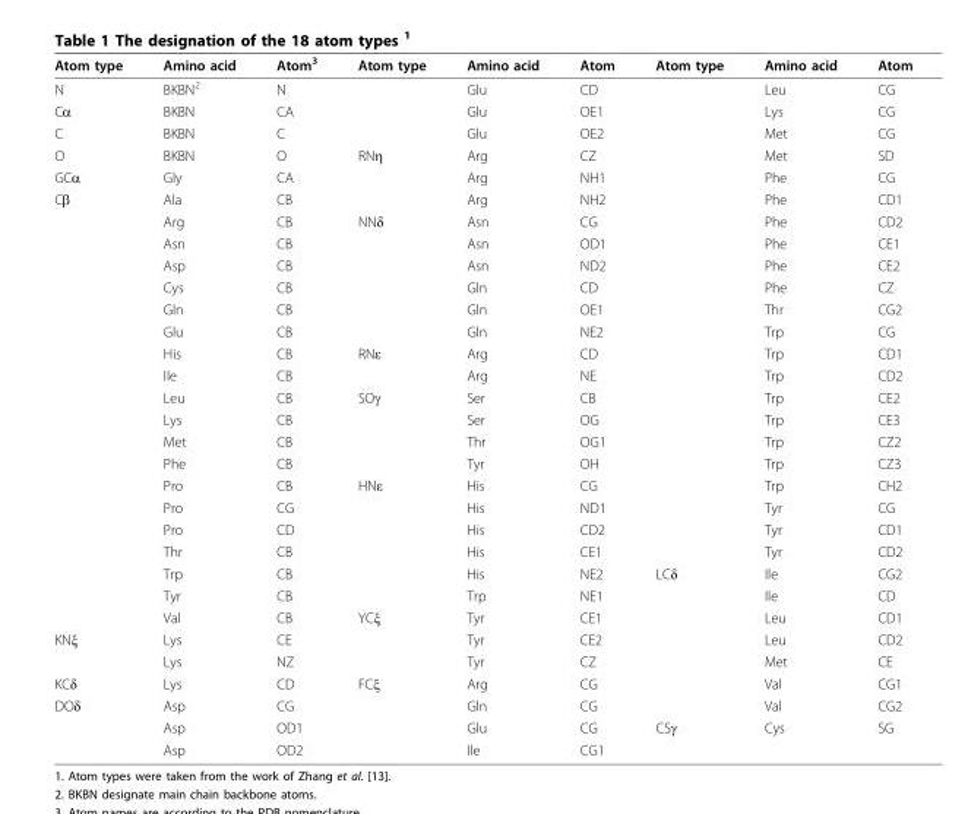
<table><thead><tr><td>Atom type</td><td>Amino acid</td><td>Atom<sup>3</sup></td><td>Atom type</td><td>Amino acid</td><td>Atom</td><td>Atom type</td><td>Amino acid</td><td>Atom</td></tr></thead><tbody><tr><td>N</td><td>BKBN<sup>2</sup></td><td>N</td><td></td><td>Glu</td><td>CD</td><td></td><td>Leu</td><td>CG</td></tr><tr><td>Cα</td><td>BKBN</td><td>CA</td><td></td><td>Glu</td><td>OE1</td><td></td><td>Lys</td><td>CG</td></tr><tr><td>C</td><td>BKBN</td><td>C</td><td></td><td>Glu</td><td>OE2</td><td></td><td>Met</td><td>CG</td></tr><tr><td>O</td><td>BKBN</td><td>O</td><td>RNη</td><td>Arg</td><td>CZ</td><td></td><td>Met</td><td>SD</td></tr><tr><td>GCα</td><td>Gly</td><td>CA</td><td></td><td>Arg</td><td>NH1</td><td></td><td>Phe</td><td>CG</td></tr><tr><td rowspan="20">Cβ</td><td>Ala</td><td>CB</td><td></td><td>Arg</td><td>NH2</td><td></td><td>Phe</td><td>CD1</td></tr><tr><td>Arg</td><td>CB</td><td>NNδ</td><td>Asn</td><td>CG</td><td></td><td>Phe</td><td>CD2</td></tr><tr><td>Asn</td><td>CB</td><td></td><td>Asn</td><td>OD1</td><td></td><td>Phe</td><td>CE1</td></tr><tr><td>Asp</td><td>CB</td><td></td><td>Asn</td><td>ND2</td><td></td><td>Phe</td><td>CE2</td></tr><tr><td>Cys</td><td>CB</td><td></td><td>Gln</td><td>CD</td><td></td><td>Phe</td><td>CZ</td></tr><tr><td>Gln</td><td>CB</td><td></td><td>Gln</td><td>OE1</td><td></td><td>Thr</td><td>CG2</td></tr><tr><td>Glu</td><td>CB</td><td></td><td>Gln</td><td>NE2</td><td></td><td>Trp</td><td>CG</td></tr><tr><td>His</td><td>CB</td><td>RNε</td><td>Arg</td><td>CD</td><td></td><td>Trp</td><td>CD1</td></tr><tr><td>Ile</td><td>CB</td><td></td><td>Arg</td><td>NE</td><td></td><td>Trp</td><td>CD2</td></tr><tr><td>Leu</td><td>CB</td><td>SOγ</td><td>Ser</td><td>CB</td><td></td><td>Trp</td><td>CE2</td></tr><tr><td>Lys</td><td>CB</td><td></td><td>Ser</td><td>OG</td><td></td><td>Trp</td><td>CE3</td></tr><tr><td>Met</td><td>CB</td><td></td><td>Thr</td><td>OG1</td><td></td><td>Trp</td><td>CZ2</td></tr><tr><td>Phe</td><td>CB</td><td></td><td>Tyr</td><td>OH</td><td></td><td>Trp</td><td>CZ3</td></tr><tr><td>Pro</td><td>CB</td><td>HNε</td><td>His</td><td>CG</td><td></td><td>Trp</td><td>CH2</td></tr><tr><td>Pro</td><td>CG</td><td></td><td>His</td><td>ND1</td><td></td><td>Tyr</td><td>CG</td></tr><tr><td>Pro</td><td>CD</td><td></td><td>His</td><td>CD2</td><td></td><td>Tyr</td><td>CD1</td></tr><tr><td>Thr</td><td>CB</td><td></td><td>His</td><td>CE1</td><td></td><td>Tyr</td><td>CD2</td></tr><tr><td>Trp</td><td>CB</td><td></td><td>His</td><td>NE2</td><td>LCδ</td><td>Ile</td><td>CG2</td></tr><tr><td>Tyr</td><td>CB</td><td></td><td>Trp</td><td>NE1</td><td></td><td>Ile</td><td>CD</td></tr><tr><td>Val</td><td>CB</td><td>YCξ</td><td>Tyr</td><td>CE1</td><td></td><td>Leu</td><td>CD1</td></tr><tr><td rowspan="2">KNξ</td><td>Lys</td><td>CE</td><td></td><td>Tyr</td><td>CE2</td><td></td><td>Leu</td><td>CD2</td></tr><tr><td>Lys</td><td>NZ</td><td></td><td>Tyr</td><td>CZ</td><td></td><td>Met</td><td>CE</td></tr><tr><td>KCδ</td><td>Lys</td><td>CD</td><td>FCξ</td><td>Arg</td><td>CG</td><td></td><td>Val</td><td>CG1</td></tr><tr><td rowspan="3">DOδ</td><td>Asp</td><td>CG</td><td></td><td>Gln</td><td>CG</td><td></td><td>Val</td><td>CG2</td></tr><tr><td>Asp</td><td>OD1</td><td></td><td>Glu</td><td>CG</td><td>CSγ</td><td>Cys</td><td>SG</td></tr><tr><td>Asp</td><td>OD2</td><td></td><td>Ile</td><td>CG1</td><td></td><td></td><td></td></tr></tbody></table>